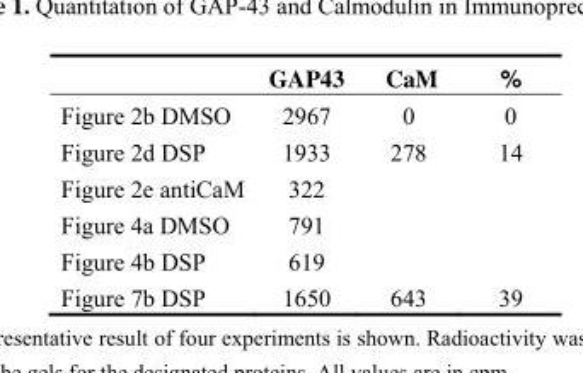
<table><thead><tr><td></td><td>GAP43</td><td>CaM</td><td>%</td></tr></thead><tbody><tr><td>Figure 2b DMSO</td><td>2967</td><td>0</td><td>0</td></tr><tr><td>Figure 2d DSP</td><td>1933</td><td>278</td><td>14</td></tr><tr><td>Figure 2e antiCaM</td><td>322</td><td></td><td></td></tr><tr><td>Figure 4a DMSO</td><td>791</td><td></td><td></td></tr><tr><td>Figure 4b DSP</td><td>619</td><td></td><td></td></tr><tr><td>Figure 7b DSP</td><td>1650</td><td>643</td><td>39</td></tr></tbody></table>